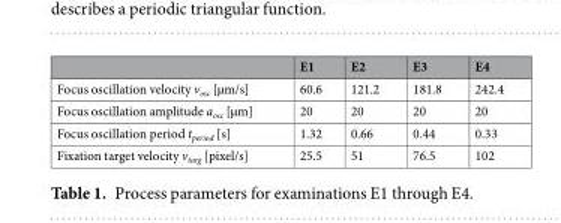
<table><thead><tr><td></td><td>E1</td><td>E2</td><td>E3</td><td>E4</td></tr></thead><tbody><tr><td>Focus oscillation velocity v<sub>osc</sub> [µm/s]</td><td>60.6</td><td>121.2</td><td>181.8</td><td>242.4</td></tr><tr><td>Focus oscillation amplitude a<sub>osc</sub> [µm]</td><td>20</td><td>20</td><td>20</td><td>20</td></tr><tr><td>Focus oscillation period t<sub>period</sub> [s]</td><td>1.32</td><td>0.66</td><td>0.44</td><td>0.33</td></tr><tr><td>Fixation target velocity v<sub>targ</sub> [pixel/s]</td><td>25.5</td><td>51</td><td>76.5</td><td>102</td></tr></tbody></table>